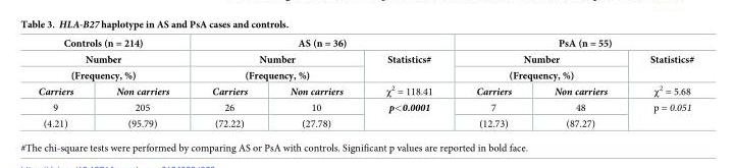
<table><thead><tr><td rowspan="3" colspan="2">Controls (n = 214) Number (Frequency, %)</td><td colspan="3">AS (n = 36)</td><td colspan="3">PsA (n = 55)</td></tr><tr><td rowspan="2" colspan="2">Number (Frequency, %)</td><td rowspan="3">Statistics# χ<sup>2</sup> = 118.41</td><td rowspan="2" colspan="2">Number (Frequency, %)</td><td rowspan="3">Statistics# χ<sup>2</sup> = 5.68</td></tr><tr></tr><tr><td>Carriers</td><td>Non carriers</td><td>Carriers</td><td>Non carriers</td><td>Carriers</td><td>Non carriers</td></tr></thead><tbody><tr><td>9</td><td>205</td><td>26</td><td>10</td><td rowspan="2">p&lt;0.0001</td><td>7</td><td>48</td><td rowspan="2">p = 0.051</td></tr><tr><td>(4.21)</td><td>(95.79)</td><td>(72.22)</td><td>(27.78)</td><td>(12.73)</td><td>(87.27)</td></tr></tbody></table>